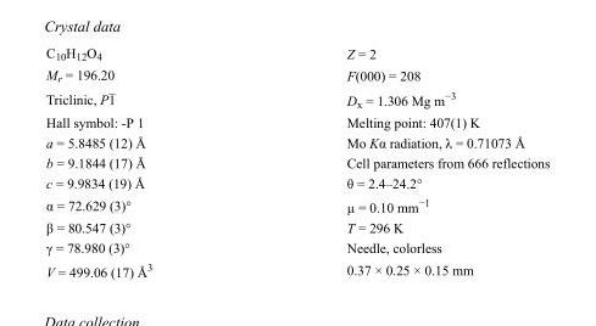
<table><tbody><tr><td>C<sub>10</sub>H<sub>12</sub>O<sub>4</sub></td><td>Z = 2</td></tr><tr><td>M<sub>r</sub> = 196.20</td><td>F(000) = 208</td></tr><tr><td>Triclinic, P1</td><td>D<sub>x</sub> = 1.306 Mg m<sup>−3</sup></td></tr><tr><td>Hall symbol: -P 1</td><td>Melting point: 407(1) K</td></tr><tr><td>a = 5.8485 (12) Å</td><td>Mo Kα radiation, λ = 0.71073 Å</td></tr><tr><td>b = 9.1844 (17) Å</td><td>Cell parameters from 666 reflections</td></tr><tr><td>c = 9.9834 (19) Å</td><td>θ = 2.4–24.2°</td></tr><tr><td>α = 72.629 (3)°</td><td>µ = 0.10 mm<sup>−1</sup></td></tr><tr><td>β = 80.547 (3)°</td><td>T = 296 K</td></tr><tr><td>γ = 78.980 (3)°</td><td>Needle, colorless</td></tr><tr><td>V = 499.06 (17) Å<sup>3</sup></td><td>0.37 × 0.25 × 0.15 mm</td></tr></tbody></table>